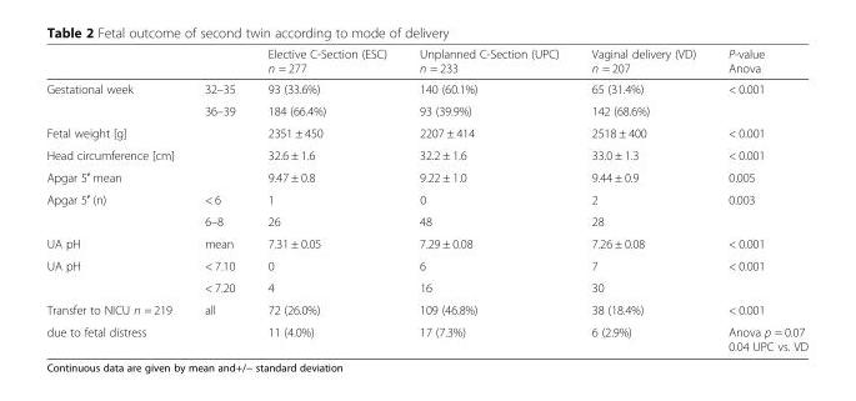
<table><thead><tr><td></td><td></td><td>Elective C-Section (ESC) n = 277</td><td>Unplanned C-Section (UPC) n = 233</td><td>Vaginal delivery (VD) n = 207</td><td>P-value Anova</td></tr></thead><tbody><tr><td rowspan="2">Gestational week</td><td>32–35</td><td>93 (33.6%)</td><td>140 (60.1%)</td><td>65 (31.4%)</td><td rowspan="2">&lt; 0.001</td></tr><tr><td>36–39</td><td>184 (66.4%)</td><td>93 (39.9%)</td><td>142 (68.6%)</td></tr><tr><td colspan="2">Fetal weight [g]</td><td>2351 ± 450</td><td>2207 ± 414</td><td>2518 ± 400</td><td>&lt; 0.001</td></tr><tr><td colspan="2">Head circumference [cm]</td><td>32.6 ± 1.6</td><td>32.2 ± 1.6</td><td>33.0 ± 1.3</td><td>&lt; 0.001</td></tr><tr><td colspan="2">Apgar 5′ mean</td><td>9.47 ± 0.8</td><td>9.22 ± 1.0</td><td>9.44 ± 0.9</td><td>0.005</td></tr><tr><td rowspan="2">Apgar 5′ (n)</td><td>&lt; 6</td><td>1</td><td>0</td><td>2</td><td>0.003</td></tr><tr><td>6–8</td><td>26</td><td>48</td><td>28</td><td></td></tr><tr><td>UA pH</td><td>mean</td><td>7.31 ± 0.05</td><td>7.29 ± 0.08</td><td>7.26 ± 0.08</td><td>&lt; 0.001</td></tr><tr><td rowspan="2">UA pH</td><td>&lt; 7.10</td><td>0</td><td>6</td><td>7</td><td>&lt; 0.001</td></tr><tr><td>&lt; 7.20</td><td>4</td><td>16</td><td>30</td><td></td></tr><tr><td>Transfer to NICU n = 219</td><td>all</td><td>72 (26.0%)</td><td>109 (46.8%)</td><td>38 (18.4%)</td><td>&lt; 0.001</td></tr><tr><td colspan="2">due to fetal distress</td><td>11 (4.0%)</td><td>17 (7.3%)</td><td>6 (2.9%)</td><td>Anova p = 0.07 0.04 UPC vs. VD</td></tr></tbody></table>